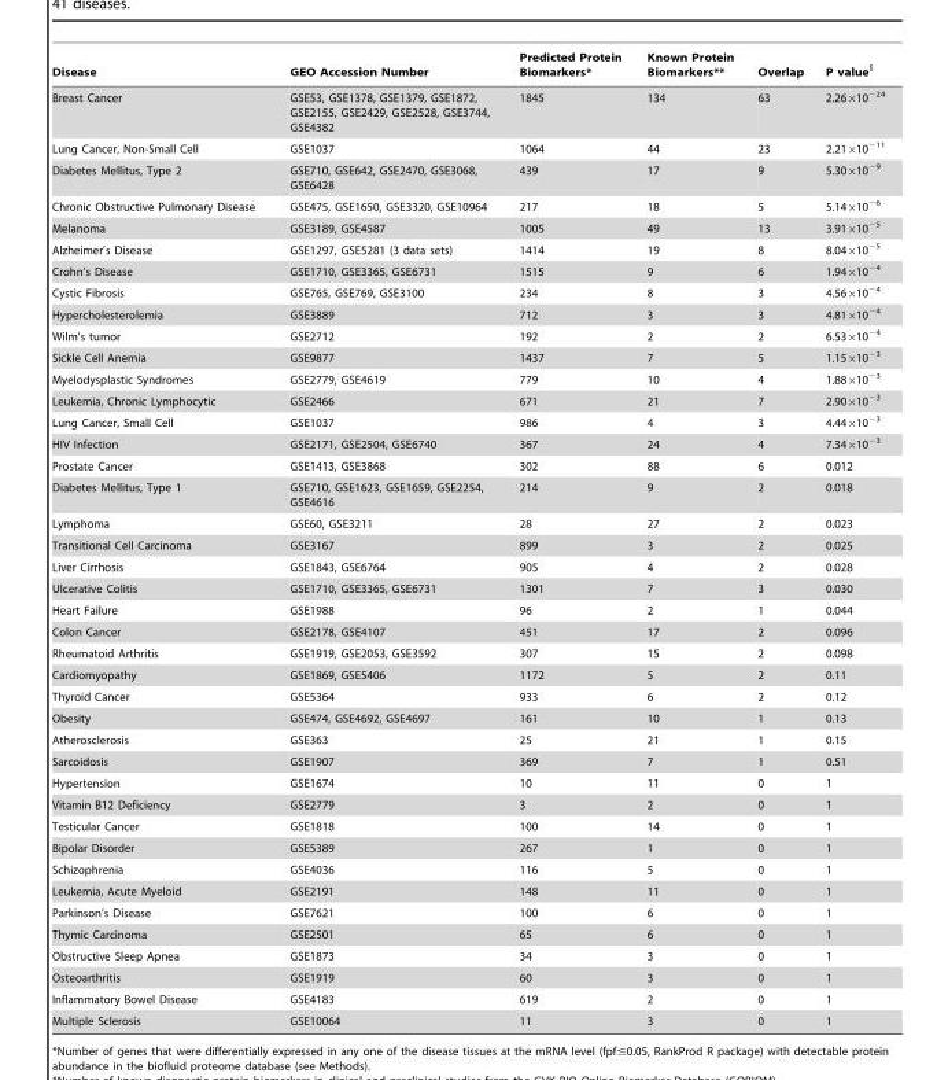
<table><thead><tr><td>Disease</td><td>GEO Accession Number</td><td>Predicted Protein Biomarkers*</td><td>Known Protein Biomarkers**</td><td>Overlap</td><td>P value$</td></tr></thead><tbody><tr><td>Breast Cancer</td><td>GSE53, GSE1378, GSE1379, GSE1872, GSE2155, GSE2429, GSE2528, GSE3744, GSE4382</td><td>1845</td><td>134</td><td>63</td><td>2.26×10<sup>−24</sup></td></tr><tr><td>Lung Cancer, Non-Small Cell</td><td>GSE1037</td><td>1064</td><td>44</td><td>23</td><td>2.21×10<sup>−11</sup></td></tr><tr><td>Diabetes Mellitus, Type 2</td><td>GSE710, GSE642, GSE2470, GSE3068, GSE6428</td><td>439</td><td>17</td><td>9</td><td>5.30×10<sup>−9</sup></td></tr><tr><td>Chronic Obstructive Pulmonary Disease</td><td>GSE475, GSE1650, GSE3320, GSE10964</td><td>217</td><td>18</td><td>5</td><td>5.14×10<sup>−6</sup></td></tr><tr><td>Melanoma</td><td>GSE3189, GSE4587</td><td>1005</td><td>49</td><td>13</td><td>3.91×10<sup>−5</sup></td></tr><tr><td>Alzheimer’s Disease</td><td>GSE1297, GSE5281 (3 data sets)</td><td>1414</td><td>19</td><td>8</td><td>8.04×10<sup>−5</sup></td></tr><tr><td>Crohn’s Disease</td><td>GSE1710, GSE3365, GSE6731</td><td>1515</td><td>9</td><td>6</td><td>1.94×10<sup>−4</sup></td></tr><tr><td>Cystic Fibrosis</td><td>GSE765, GSE769, GSE3100</td><td>234</td><td>8</td><td>3</td><td>4.56×10<sup>−4</sup></td></tr><tr><td>Hypercholesterolemia</td><td>GSE3889</td><td>712</td><td>3</td><td>3</td><td>4.81×10<sup>−4</sup></td></tr><tr><td>Wilm’s tumor</td><td>GSE2712</td><td>192</td><td>2</td><td>2</td><td>6.53×10<sup>−4</sup></td></tr><tr><td>Sickle Cell Anemia</td><td>GSE9877</td><td>1437</td><td>7</td><td>5</td><td>1.15×10<sup>−3</sup></td></tr><tr><td>Myelodysplastic Syndromes</td><td>GSE2779, GSE4619</td><td>779</td><td>10</td><td>4</td><td>1.88×10<sup>−3</sup></td></tr><tr><td>Leukemia, Chronic Lymphocytic</td><td>GSE2466</td><td>671</td><td>21</td><td>7</td><td>2.90×10<sup>−3</sup></td></tr><tr><td>Lung Cancer, Small Cell</td><td>GSE1037</td><td>986</td><td>4</td><td>3</td><td>4.44×10<sup>−3</sup></td></tr><tr><td>HIV Infection</td><td>GSE2171, GSE2504, GSE6740</td><td>367</td><td>24</td><td>4</td><td>7.34×10<sup>−3</sup></td></tr><tr><td>Prostate Cancer</td><td>GSE1413, GSE3868</td><td>302</td><td>88</td><td>6</td><td>0.012</td></tr><tr><td>Diabetes Mellitus, Type 1</td><td>GSE710, GSE1623, GSE1659, GSE2254, GSE4616</td><td>214</td><td>9</td><td>2</td><td>0.018</td></tr><tr><td>Lymphoma</td><td>GSE60, GSE3211</td><td>28</td><td>27</td><td>2</td><td>0.023</td></tr><tr><td>Transitional Cell Carcinoma</td><td>GSE3167</td><td>899</td><td>3</td><td>2</td><td>0.025</td></tr><tr><td>Liver Cirrhosis</td><td>GSE1843, GSE6764</td><td>905</td><td>4</td><td>2</td><td>0.028</td></tr><tr><td>Ulcerative Colitis</td><td>GSE1710, GSE3365, GSE6731</td><td>1301</td><td>7</td><td>3</td><td>0.030</td></tr><tr><td>Heart Failure</td><td>GSE1988</td><td>96</td><td>2</td><td>1</td><td>0.044</td></tr><tr><td>Colon Cancer</td><td>GSE2178, GSE4107</td><td>451</td><td>17</td><td>2</td><td>0.096</td></tr><tr><td>Rheumatoid Arthritis</td><td>GSE1919, GSE2053, GSE3592</td><td>307</td><td>15</td><td>2</td><td>0.098</td></tr><tr><td>Cardiomyopathy</td><td>GSE1869, GSE5406</td><td>1172</td><td>5</td><td>2</td><td>0.11</td></tr><tr><td>Thyroid Cancer</td><td>GSE5364</td><td>933</td><td>6</td><td>2</td><td>0.12</td></tr><tr><td>Obesity</td><td>GSE474, GSE4692, GSE4697</td><td>161</td><td>10</td><td>1</td><td>0.13</td></tr><tr><td>Atherosclerosis</td><td>GSE363</td><td>25</td><td>21</td><td>1</td><td>0.15</td></tr><tr><td>Sarcoidosis</td><td>GSE1907</td><td>369</td><td>7</td><td>1</td><td>0.51</td></tr><tr><td>Hypertension</td><td>GSE1674</td><td>10</td><td>11</td><td>0</td><td>1</td></tr><tr><td>Vitamin B12 Deficiency</td><td>GSE2779</td><td>3</td><td>2</td><td>0</td><td>1</td></tr><tr><td>Testicular Cancer</td><td>GSE1818</td><td>100</td><td>14</td><td>0</td><td>1</td></tr><tr><td>Bipolar Disorder</td><td>GSE5389</td><td>267</td><td>1</td><td>0</td><td>1</td></tr><tr><td>Schizophrenia</td><td>GSE4036</td><td>116</td><td>5</td><td>0</td><td>1</td></tr><tr><td>Leukemia, Acute Myeloid</td><td>GSE2191</td><td>148</td><td>11</td><td>0</td><td>1</td></tr><tr><td>Parkinson’s Disease</td><td>GSE7621</td><td>100</td><td>6</td><td>0</td><td>1</td></tr><tr><td>Thymic Carcinoma</td><td>GSE2501</td><td>65</td><td>6</td><td>0</td><td>1</td></tr><tr><td>Obstructive Sleep Apnea</td><td>GSE1873</td><td>34</td><td>3</td><td>0</td><td>1</td></tr><tr><td>Osteoarthritis</td><td>GSE1919</td><td>60</td><td>3</td><td>0</td><td>1</td></tr><tr><td>Inflammatory Bowel Disease</td><td>GSE4183</td><td>619</td><td>2</td><td>0</td><td>1</td></tr><tr><td>Multiple Sclerosis</td><td>GSE10064</td><td>11</td><td>3</td><td>0</td><td>1</td></tr></tbody></table>